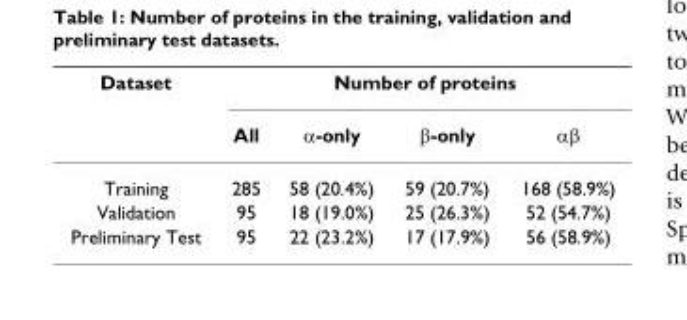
<table><thead><tr><td rowspan="2">Dataset</td><td colspan="4">Number of proteins</td></tr><tr><td>All</td><td>α-only</td><td>β-only</td><td>αβ</td></tr></thead><tbody><tr><td>Training</td><td>285</td><td>58 (20.4%)</td><td>59 (20.7%)</td><td>168 (58.9%)</td></tr><tr><td>Validation</td><td>95</td><td>18 (19.0%)</td><td>25 (26.3%)</td><td>52 (54.7%)</td></tr><tr><td>Preliminary Test</td><td>95</td><td>22 (23.2%)</td><td>17 (17.9%)</td><td>56 (58.9%)</td></tr></tbody></table>